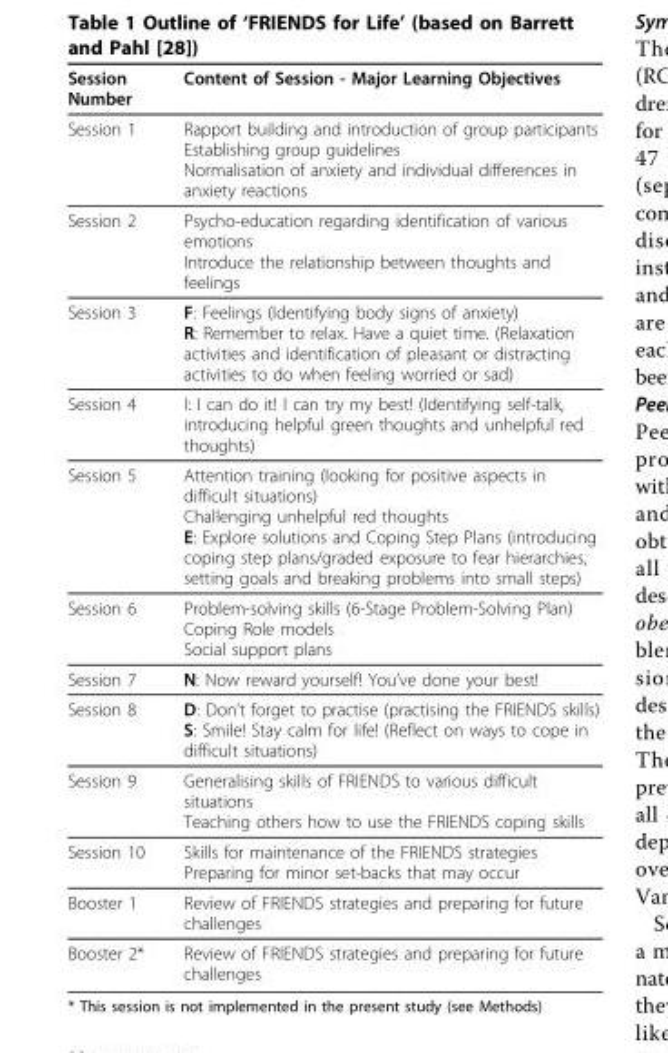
<table><thead><tr><td>Session Number</td><td>Content of Session - Major Learning Objectives</td></tr></thead><tbody><tr><td>Session 1</td><td>Rapport building and introduction of group participants Establishing group guidelines Normalisation of anxiety and individual differences in anxiety reactions</td></tr><tr><td>Session 2</td><td>Psycho-education regarding identification of various emotions Introduce the relationship between thoughts and feelings</td></tr><tr><td>Session 3</td><td>F: Feelings (Identifying body signs of anxiety) R: Remember to relax. Have a quiet time. (Relaxation activities and identification of pleasant or distracting activities to do when feeling worried or sad)</td></tr><tr><td>Session 4</td><td>I: I can do it! I can try my best! (Identifying self-talk, introducing helpful green thoughts and unhelpful red thoughts)</td></tr><tr><td>Session 5</td><td>Attention training (looking for positive aspects in difficult situations) Challenging unhelpful red thoughts E: Explore solutions and Coping Step Plans (introducing coping step plans/graded exposure to fear hierarchies, setting goals and breaking problems into small steps)</td></tr><tr><td>Session 6</td><td>Problem-solving skills (6-Stage Problem-Solving Plan) Coping Role models Social support plans</td></tr><tr><td>Session 7</td><td>N: Now reward yourself! You’ve done your best!</td></tr><tr><td>Session 8</td><td>D: Don’t forget to practise (practising the FRIENDS skills) S: Smile! Stay calm for life! (Reflect on ways to cope in difficult situations)</td></tr><tr><td>Session 9</td><td>Generalising skills of FRIENDS to various difficult situations Teaching others how to use the FRIENDS coping skills</td></tr><tr><td>Session 10</td><td>Skills for maintenance of the FRIENDS strategies Preparing for minor set-backs that may occur</td></tr><tr><td>Booster 1</td><td>Review of FRIENDS strategies and preparing for future challenges</td></tr><tr><td>Booster 2*</td><td>Review of FRIENDS strategies and preparing for future challenges</td></tr></tbody></table>